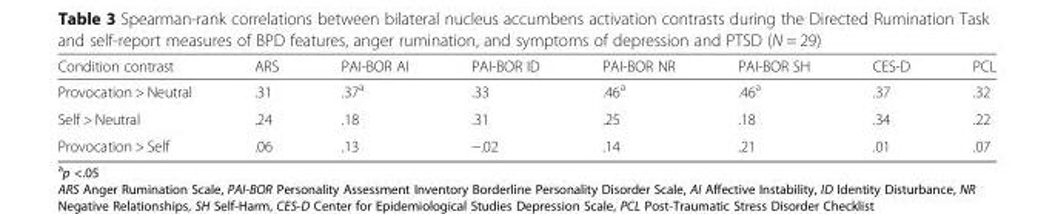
<table><thead><tr><td>Condition contrast</td><td>ARS</td><td>PAI-BOR AI</td><td>PAI-BOR ID</td><td>PAI-BOR NR</td><td>PAI-BOR SH</td><td>CES-D</td><td>PCL</td></tr></thead><tbody><tr><td>Provocation &gt; Neutral</td><td>.31</td><td>.37<sup>a</sup></td><td>.33</td><td>.46<sup>a</sup></td><td>.46<sup>a</sup></td><td>.37</td><td>.32</td></tr><tr><td>Self &gt; Neutral</td><td>.24</td><td>.18</td><td>.31</td><td>.25</td><td>.18</td><td>.34</td><td>.22</td></tr><tr><td>Provocation &gt; Self</td><td>.06</td><td>.13</td><td>−.02</td><td>.14</td><td>.21</td><td>.01</td><td>.07</td></tr></tbody></table>